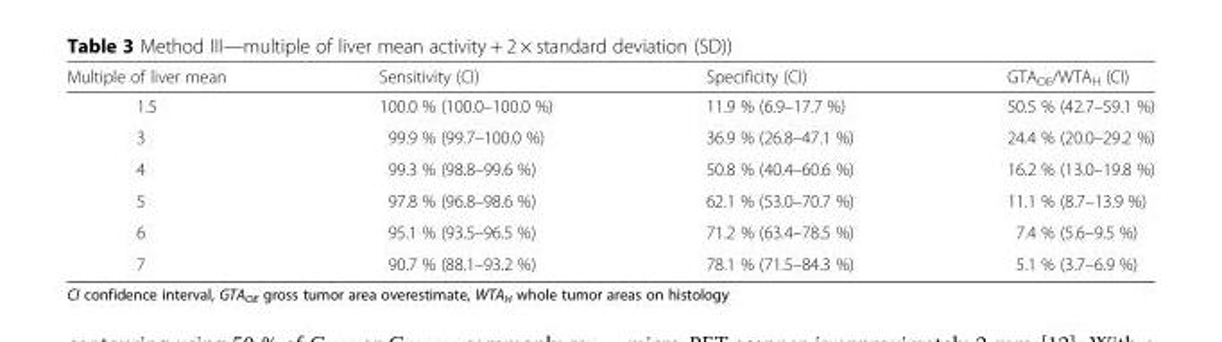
<table><thead><tr><td>Multiple of liver mean</td><td>Sensitivity (CI)</td><td>Specificity (CI)</td><td>GTA<sub>OE</sub>/WTA<sub>H</sub> (CI)</td></tr></thead><tbody><tr><td>1.5</td><td>100.0 % (100.0–100.0 %)</td><td>11.9 % (6.9–17.7 %)</td><td>50.5 % (42.7–59.1 %)</td></tr><tr><td>3</td><td>99.9 % (99.7–100.0 %)</td><td>36.9 % (26.8–47.1 %)</td><td>24.4 % (20.0–29.2 %)</td></tr><tr><td>4</td><td>99.3 % (98.8–99.6 %)</td><td>50.8 % (40.4–60.6 %)</td><td>16.2 % (13.0–19.8 %)</td></tr><tr><td>5</td><td>97.8 % (96.8–98.6 %)</td><td>62.1 % (53.0–70.7 %)</td><td>11.1 % (8.7–13.9 %)</td></tr><tr><td>6</td><td>95.1 % (93.5–96.5 %)</td><td>71.2 % (63.4–78.5 %)</td><td>7.4 % (5.6–9.5 %)</td></tr><tr><td>7</td><td>90.7 % (88.1–93.2 %)</td><td>78.1 % (71.5–84.3 %)</td><td>5.1 % (3.7–6.9 %)</td></tr></tbody></table>